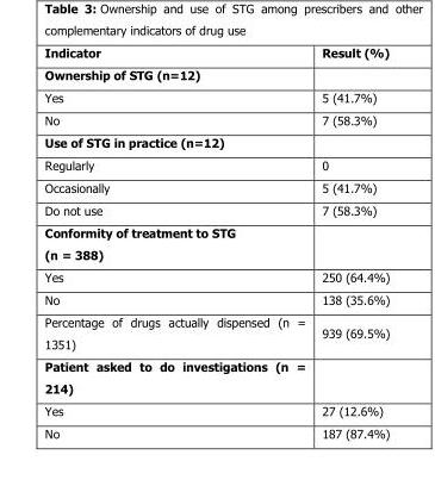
<table><thead><tr><td>Indicator</td><td>Result (%)</td></tr></thead><tbody><tr><td colspan="2">Ownership of STG (n=12)</td></tr><tr><td>Yes</td><td>5 (41.7%)</td></tr><tr><td>No</td><td>7 (58.3%)</td></tr><tr><td colspan="2">Use of STG in practice (n=12)</td></tr><tr><td>Regularly</td><td>0</td></tr><tr><td>Occasionally</td><td>5 (41.7%)</td></tr><tr><td>Do not use</td><td>7 (58.3%)</td></tr><tr><td colspan="2">Conformity of treatment to STG</td></tr><tr><td colspan="2">(n = 388)</td></tr><tr><td>Yes</td><td>250 (64.4%)</td></tr><tr><td>No</td><td>138 (35.6%)</td></tr><tr><td>Percentage of drugs actually dispensed (n = 1351)</td><td>939 (69.5%)</td></tr><tr><td colspan="2">Patient asked to do investigations (n = 214)</td></tr><tr><td>Yes</td><td>27 (12.6%)</td></tr><tr><td>No</td><td>187 (87.4%)</td></tr></tbody></table>